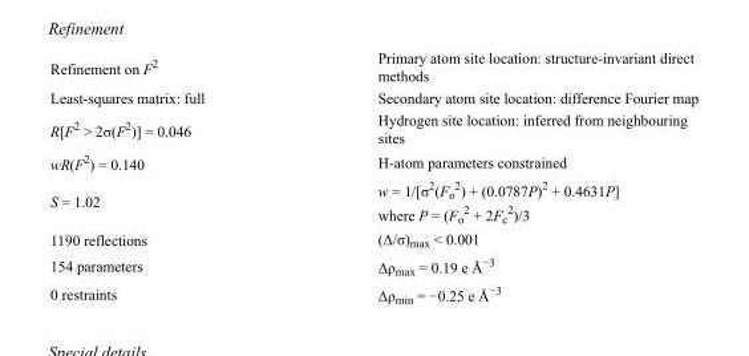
<table><tbody><tr><td>Refinement on F<sup>2</sup></td><td>Primary atom site location: structure-invariant direct methods</td></tr><tr><td>Least-squares matrix: full</td><td>Secondary atom site location: difference Fourier map</td></tr><tr><td>R[F<sup>2</sup> &gt; 2σ(F<sup>2</sup>)] = 0.046</td><td>Hydrogen site location: inferred from neighbouring sites</td></tr><tr><td>wR(F<sup>2</sup>) = 0.140</td><td>H-atom parameters constrained</td></tr><tr><td>S = 1.02</td><td>w = 1/[σ<sup>2</sup>(F<sub>o</sub> <sup>2</sup>) + (0.0787P)<sup>2</sup> + 0.4631P] where P = (F<sub>o</sub> <sup>2</sup> + 2F<sub>c</sub> <sup>2</sup>)/3</td></tr><tr><td>1190 reflections</td><td>(Δ/σ)<sub>max</sub> &lt; 0.001</td></tr><tr><td>154 parameters</td><td>Δρ<sub>max</sub> = 0.19 e Å<sup>−3</sup></td></tr><tr><td>0 restraints</td><td>Δρ<sub>min</sub> = −0.25 e Å<sup>−3</sup></td></tr></tbody></table>